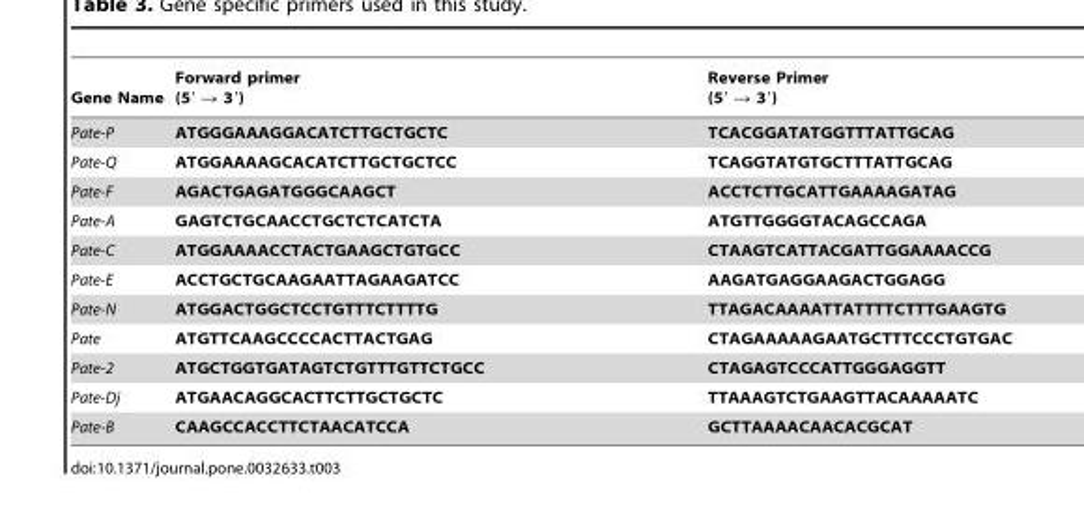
<table><thead><tr><td>Gene Name</td><td>Forward primer (5′ → 3′)</td><td>Reverse Primer (5′ → 3′)</td></tr></thead><tbody><tr><td>Pate-P</td><td>ATGGGAAAGGACATCTTGCTGCTC</td><td>TCACGGATATGGTTTATTGCAG</td></tr><tr><td>Pate-Q</td><td>ATGGAAAAGCACATCTTGCTGCTCC</td><td>TCAGGTATGTGCTTTATTGCAG</td></tr><tr><td>Pate-F</td><td>AGACTGAGATGGGCAAGCT</td><td>ACCTCTTGCATTGAAAAGATAG</td></tr><tr><td>Pate-A</td><td>GAGTCTGCAACCTGCTCTCATCTA</td><td>ATGTTGGGGTACAGCCAGA</td></tr><tr><td>Pate-C</td><td>ATGGAAAACCTACTGAAGCTGTGCC</td><td>CTAAGTCATTACGATTGGAAAACCG</td></tr><tr><td>Pate-E</td><td>ACCTGCTGCAAGAATTAGAAGATCC</td><td>AAGATGAGGAAGACTGGAGG</td></tr><tr><td>Pate-N</td><td>ATGGACTGGCTCCTGTTTCTTTTG</td><td>TTAGACAAAATTATTTTCTTTGAAGTG</td></tr><tr><td>Pate</td><td>ATGTTCAAGCCCCACTTACTGAG</td><td>CTAGAAAAAGAATGCTTTCCCTGTGAC</td></tr><tr><td>Pate-2</td><td>ATGCTGGTGATAGTCTGTTTGTTCTGCC</td><td>CTAGAGTCCCATTGGGAGGTT</td></tr><tr><td>Pate-Dj</td><td>ATGAACAGGCACTTCTTGCTGCTC</td><td>TTAAAGTCTGAAGTTACAAAAATC</td></tr><tr><td>Pate-B</td><td>CAAGCCACCTTCTAACATCCA</td><td>GCTTAAAACAACACGCAT</td></tr></tbody></table>